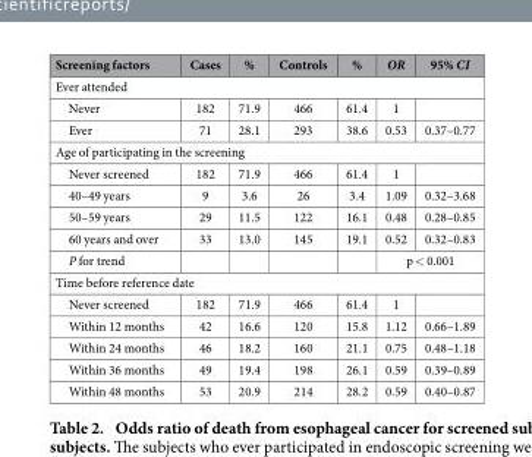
<table><thead><tr><td>Screening factors</td><td>Cases</td><td>%</td><td>Controls</td><td>%</td><td>OR</td><td>95% CI</td></tr></thead><tbody><tr><td colspan="7">Ever attended</td></tr><tr><td>Never</td><td>182</td><td>71.9</td><td>466</td><td>61.4</td><td>1</td><td></td></tr><tr><td>Ever</td><td>71</td><td>28.1</td><td>293</td><td>38.6</td><td>0.53</td><td>0.37–0.77</td></tr><tr><td colspan="7">Age of participating in the screening</td></tr><tr><td>Never screened</td><td>182</td><td>71.9</td><td>466</td><td>61.4</td><td>1</td><td></td></tr><tr><td>40–49 years</td><td>9</td><td>3.6</td><td>26</td><td>3.4</td><td>1.09</td><td>0.32–3.68</td></tr><tr><td>50–59 years</td><td>29</td><td>11.5</td><td>122</td><td>16.1</td><td>0.48</td><td>0.28–0.85</td></tr><tr><td>60 years and over</td><td>33</td><td>13.0</td><td>145</td><td>19.1</td><td>0.52</td><td>0.32–0.83</td></tr><tr><td>P for trend</td><td></td><td></td><td></td><td></td><td colspan="2">p &lt; 0.001</td></tr><tr><td colspan="7">Time before reference date</td></tr><tr><td>Never screened</td><td>182</td><td>71.9</td><td>466</td><td>61.4</td><td>1</td><td></td></tr><tr><td>Within 12 months</td><td>42</td><td>16.6</td><td>120</td><td>15.8</td><td>1.12</td><td>0.66–1.89</td></tr><tr><td>Within 24 months</td><td>46</td><td>18.2</td><td>160</td><td>21.1</td><td>0.75</td><td>0.48–1.18</td></tr><tr><td>Within 36 months</td><td>49</td><td>19.4</td><td>198</td><td>26.1</td><td>0.59</td><td>0.39–0.89</td></tr><tr><td>Within 48 months</td><td>53</td><td>20.9</td><td>214</td><td>28.2</td><td>0.59</td><td>0.40–0.87</td></tr></tbody></table>